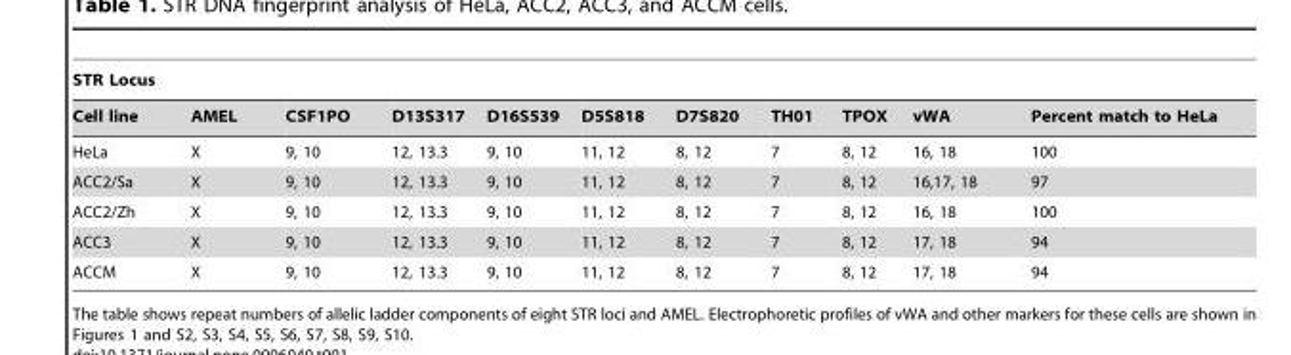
<table><thead><tr><td colspan="11">STR Locus</td></tr><tr><td>Cell line</td><td>AMEL</td><td>CSF1PO</td><td>D13S317</td><td>D16S539</td><td>D5S818</td><td>D7S820</td><td>TH01</td><td>TPOX</td><td>vWA</td><td>Percent match to HeLa</td></tr></thead><tbody><tr><td>HeLa</td><td>X</td><td>9, 10</td><td>12, 13.3</td><td>9, 10</td><td>11, 12</td><td>8, 12</td><td>7</td><td>8, 12</td><td>16, 18</td><td>100</td></tr><tr><td>ACC2/Sa</td><td>X</td><td>9, 10</td><td>12, 13.3</td><td>9, 10</td><td>11, 12</td><td>8, 12</td><td>7</td><td>8, 12</td><td>16,17, 18</td><td>97</td></tr><tr><td>ACC2/Zh</td><td>X</td><td>9, 10</td><td>12, 13.3</td><td>9, 10</td><td>11, 12</td><td>8, 12</td><td>7</td><td>8, 12</td><td>16, 18</td><td>100</td></tr><tr><td>ACC3</td><td>X</td><td>9, 10</td><td>12, 13.3</td><td>9, 10</td><td>11, 12</td><td>8, 12</td><td>7</td><td>8, 12</td><td>17, 18</td><td>94</td></tr><tr><td>ACCM</td><td>X</td><td>9, 10</td><td>12, 13.3</td><td>9, 10</td><td>11, 12</td><td>8, 12</td><td>7</td><td>8, 12</td><td>17, 18</td><td>94</td></tr></tbody></table>